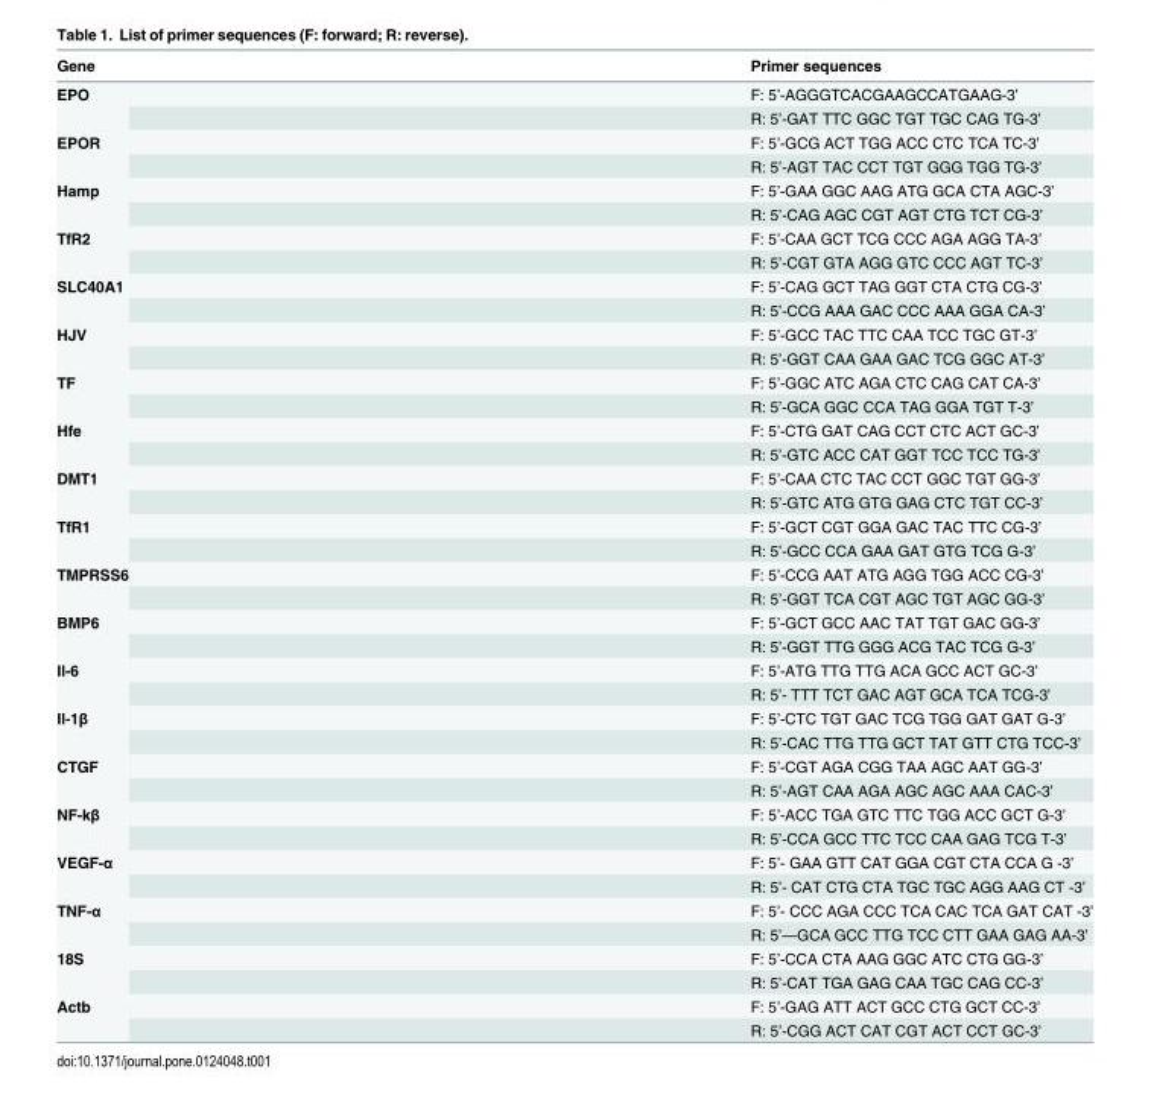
<table><thead><tr><td>Gene</td><td>Primer sequences</td></tr></thead><tbody><tr><td rowspan="2">EPO</td><td>F: 5’-AGGGTCACGAAGCCATGAAG-3’</td></tr><tr><td>R: 5’-GAT TTC GGC TGT TGC CAG TG-3’</td></tr><tr><td rowspan="2">EPOR</td><td>F: 5’-GCG ACT TGG ACC CTC TCA TC-3’</td></tr><tr><td>R: 5’-AGT TAC CCT TGT GGG TGG TG-3’</td></tr><tr><td rowspan="2">Hamp</td><td>F: 5’-GAA GGC AAG ATG GCA CTA AGC-3’</td></tr><tr><td>R: 5’-CAG AGC CGT AGT CTG TCT CG-3’</td></tr><tr><td rowspan="2">TfR2</td><td>F: 5’-CAA GCT TCG CCC AGA AGG TA-3’</td></tr><tr><td>R: 5’-CGT GTA AGG GTC CCC AGT TC-3’</td></tr><tr><td rowspan="2">SLC40A1</td><td>F: 5’-CAG GCT TAG GGT CTA CTG CG-3’</td></tr><tr><td>R: 5’-CCG AAA GAC CCC AAA GGA CA-3’</td></tr><tr><td rowspan="2">HJV</td><td>F: 5’-GCC TAC TTC CAA TCC TGC GT-3’</td></tr><tr><td>R: 5’-GGT CAA GAA GAC TCG GGC AT-3’</td></tr><tr><td rowspan="2">TF</td><td>F: 5’-GGC ATC AGA CTC CAG CAT CA-3’</td></tr><tr><td>R: 5’-GCA GGC CCA TAG GGA TGT T-3’</td></tr><tr><td rowspan="2">Hfe</td><td>F: 5’-CTG GAT CAG CCT CTC ACT GC-3’</td></tr><tr><td>R: 5’-GTC ACC CAT GGT TCC TCC TG-3’</td></tr><tr><td rowspan="2">DMT1</td><td>F: 5’-CAA CTC TAC CCT GGC TGT GG-3’</td></tr><tr><td>R: 5’-GTC ATG GTG GAG CTC TGT CC-3’</td></tr><tr><td rowspan="2">TfR1</td><td>F: 5’-GCT CGT GGA GAC TAC TTC CG-3’</td></tr><tr><td>R: 5’-GCC CCA GAA GAT GTG TCG G-3’</td></tr><tr><td rowspan="2">TMPRSS6</td><td>F: 5’-CCG AAT ATG AGG TGG ACC CG-3’</td></tr><tr><td>R: 5’-GGT TCA CGT AGC TGT AGC GG-3’</td></tr><tr><td rowspan="2">BMP6</td><td>F: 5’-GCT GCC AAC TAT TGT GAC GG-3’</td></tr><tr><td>R: 5’-GGT TTG GGG ACG TAC TCG G-3’</td></tr><tr><td rowspan="2">Il-6</td><td>F: 5’-ATG TTG TTG ACA GCC ACT GC-3’</td></tr><tr><td>R: 5’- TTT TCT GAC AGT GCA TCA TCG-3’</td></tr><tr><td rowspan="2">Il-1β</td><td>F: 5’-CTC TGT GAC TCG TGG GAT GAT G-3’</td></tr><tr><td>R: 5’-CAC TTG TTG GCT TAT GTT CTG TCC-3’</td></tr><tr><td rowspan="2">CTGF</td><td>F: 5’-CGT AGA CGG TAA AGC AAT GG-3’</td></tr><tr><td>R: 5’-AGT CAA AGA AGC AGC AAA CAC-3’</td></tr><tr><td rowspan="2">NF-kβ</td><td>F: 5’-ACC TGA GTC TTC TGG ACC GCT G-3’</td></tr><tr><td>R: 5’-CCA GCC TTC TCC CAA GAG TCG T-3’</td></tr><tr><td rowspan="2">VEGF-α</td><td>F: 5’- GAA GTT CAT GGA CGT CTA CCA G -3’</td></tr><tr><td>R: 5’- CAT CTG CTA TGC TGC AGG AAG CT -3’</td></tr><tr><td rowspan="2">TNF-α</td><td>F: 5’- CCC AGA CCC TCA CAC TCA GAT CAT -3’</td></tr><tr><td>R: 5’—GCA GCC TTG TCC CTT GAA GAG AA-3’</td></tr><tr><td rowspan="2">18S</td><td>F: 5’-CCA CTA AAG GGC ATC CTG GG-3’</td></tr><tr><td>R: 5’-CAT TGA GAG CAA TGC CAG CC-3’</td></tr><tr><td rowspan="2">Actb</td><td>F: 5’-GAG ATT ACT GCC CTG GCT CC-3’</td></tr><tr><td>R: 5’-CGG ACT CAT CGT ACT CCT GC-3’</td></tr></tbody></table>